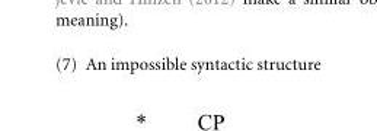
<table><tbody><tr><td>(7)</td><td>An impossible syntactic structure</td></tr></tbody></table>